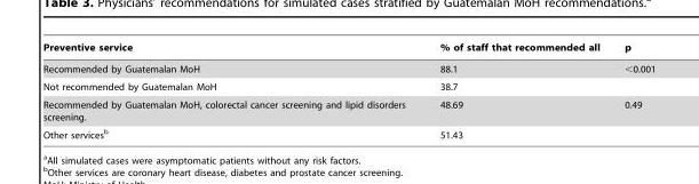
<table><thead><tr><td>Preventive service</td><td>% of staff that recommended all</td><td>p</td></tr></thead><tbody><tr><td>Recommended by Guatemalan MoH</td><td>88.1</td><td>&lt;0.001</td></tr><tr><td>Not recommended by Guatemalan MoH</td><td>38.7</td><td></td></tr><tr><td>Recommended by Guatemalan MoH, colorectal cancer screening and lipid disorders screening.</td><td>48.69</td><td>0.49</td></tr><tr><td>Other services<sup>b</sup></td><td>51.43</td><td></td></tr></tbody></table>